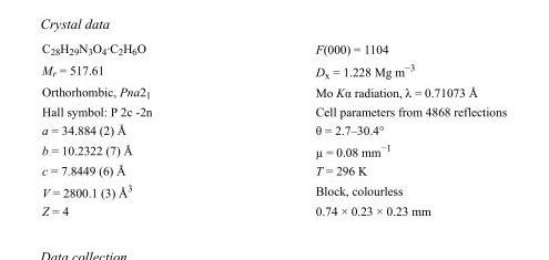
<table><tbody><tr><td>C<sub>28</sub>H<sub>29</sub>N<sub>3</sub>O<sub>4</sub>·C<sub>2</sub>H<sub>6</sub>O</td><td>F(000) = 1104</td></tr><tr><td>M<sub>r</sub> = 517.61</td><td>D<sub>x</sub> = 1.228 Mg m<sup>−3</sup></td></tr><tr><td>Orthorhombic, Pna2<sub>1</sub></td><td>Mo Kα radiation, λ = 0.71073 Å</td></tr><tr><td>Hall symbol: P 2c -2n</td><td>Cell parameters from 4868 reflections</td></tr><tr><td>a = 34.884 (2) Å</td><td>θ = 2.7–30.4°</td></tr><tr><td>b = 10.2322 (7) Å</td><td>µ = 0.08 mm<sup>−1</sup></td></tr><tr><td>c = 7.8449 (6) Å</td><td>T = 296 K</td></tr><tr><td>V = 2800.1 (3) Å<sup>3</sup></td><td>Block, colourless</td></tr><tr><td>Z = 4</td><td>0.74 × 0.23 × 0.23 mm</td></tr></tbody></table>